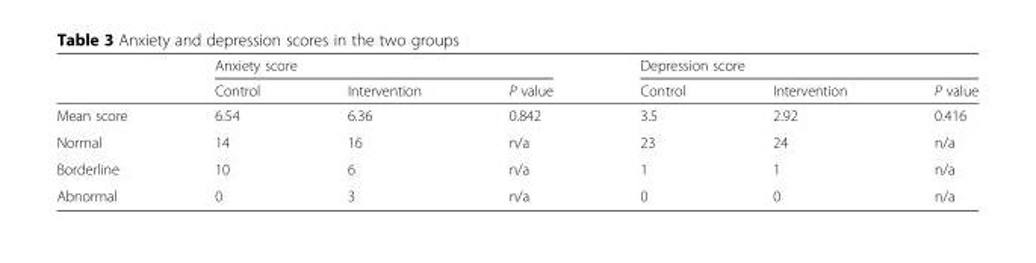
<table><thead><tr><td rowspan="2"></td><td colspan="3">Anxiety score</td><td colspan="3">Depression score</td></tr><tr><td>Control</td><td>Intervention</td><td>P value</td><td>Control</td><td>Intervention</td><td>P value</td></tr></thead><tbody><tr><td>Mean score</td><td>6.54</td><td>6.36</td><td>0.842</td><td>3.5</td><td>2.92</td><td>0.416</td></tr><tr><td>Normal</td><td>14</td><td>16</td><td>n/a</td><td>23</td><td>24</td><td>n/a</td></tr><tr><td>Borderline</td><td>10</td><td>6</td><td>n/a</td><td>1</td><td>1</td><td>n/a</td></tr><tr><td>Abnormal</td><td>0</td><td>3</td><td>n/a</td><td>0</td><td>0</td><td>n/a</td></tr></tbody></table>